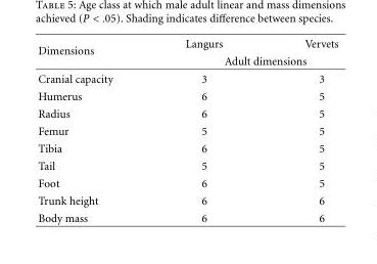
<table><thead><tr><td rowspan="2">Dimensions</td><td>Langurs</td><td>Vervets</td></tr><tr><td colspan="2">Adult dimensions</td></tr></thead><tbody><tr><td>Cranial capacity</td><td>3</td><td>3</td></tr><tr><td>Humerus</td><td>6</td><td>5</td></tr><tr><td>Radius</td><td>6</td><td>5</td></tr><tr><td>Femur</td><td>5</td><td>5</td></tr><tr><td>Tibia</td><td>6</td><td>5</td></tr><tr><td>Tail</td><td>5</td><td>5</td></tr><tr><td>Foot</td><td>6</td><td>5</td></tr><tr><td>Trunk height</td><td>6</td><td>6</td></tr><tr><td>Body mass</td><td>6</td><td>6</td></tr></tbody></table>